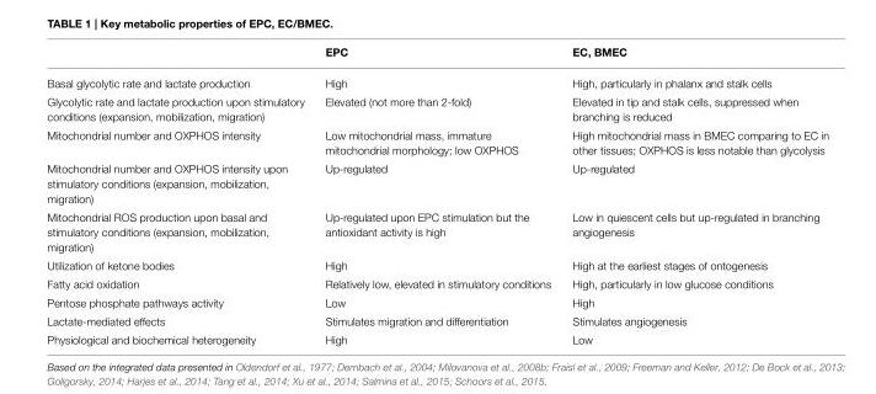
<table><thead><tr><td></td><td>EPC</td><td>EC, BMEC</td></tr></thead><tbody><tr><td>Basal glycolytic rate and lactate production</td><td>High</td><td>High, particularly in phalanx and stalk cells</td></tr><tr><td>Glycolytic rate and lactate production upon stimulatory conditions (expansion, mobilization, migration)</td><td>Elevated (not more than 2-fold)</td><td>Elevated in tip and stalk cells, suppressed when branching is reduced</td></tr><tr><td>Mitochondrial number and OXPHOS intensity</td><td>Low mitochondrial mass, immature mitochondrial morphology; low OXPHOS</td><td>High mitochondrial mass in BMEC comparing to EC in other tissues; OXPHOS is less notable than glycolysis</td></tr><tr><td>Mitochondrial number and OXPHOS intensity upon stimulatory conditions (expansion, mobilization, migration)</td><td>Up-regulated</td><td>Up-regulated</td></tr><tr><td>Mitochondrial ROS production upon basal and stimulatory conditions (expansion, mobilization, migration)</td><td>Up-regulated upon EPC stimulation but the antioxidant activity is high</td><td>Low in quiescent cells but up-regulated in branching angiogenesis</td></tr><tr><td>Utilization of ketone bodies</td><td>High</td><td>High at the earliest stages of ontogenesis</td></tr><tr><td>Fatty acid oxidation</td><td>Relatively low, elevated in stimulatory conditions</td><td>High, particularly in low glucose conditions</td></tr><tr><td>Pentose phosphate pathways activity</td><td>Low</td><td>High</td></tr><tr><td>Lactate-mediated effects</td><td>Stimulates migration and differentiation</td><td>Stimulates angiogenesis</td></tr><tr><td>Physiological and biochemical heterogeneity</td><td>High</td><td>Low</td></tr></tbody></table>